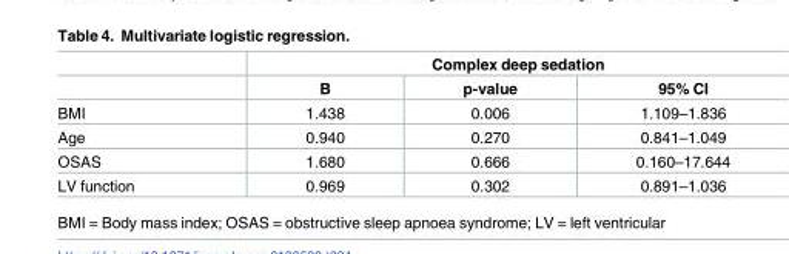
<table><thead><tr><td rowspan="2"></td><td colspan="3">Complex deep sedation</td></tr><tr><td>B</td><td>p-value</td><td>95% CI</td></tr></thead><tbody><tr><td>BMI</td><td>1.438</td><td>0.006</td><td>1.109–1.836</td></tr><tr><td>Age</td><td>0.940</td><td>0.270</td><td>0.841–1.049</td></tr><tr><td>OSAS</td><td>1.680</td><td>0.666</td><td>0.160–17.644</td></tr><tr><td>LV function</td><td>0.969</td><td>0.302</td><td>0.891–1.036</td></tr></tbody></table>